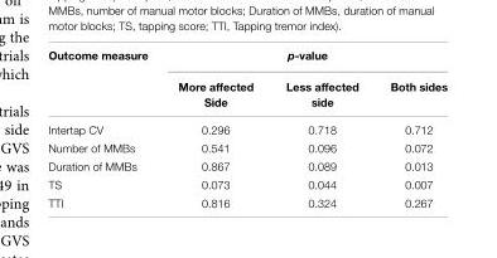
<table><thead><tr><td rowspan="2">Outcome measure</td><td colspan="3">p-value</td></tr><tr><td>More affected Side</td><td>Less affected side</td><td>Both sides</td></tr></thead><tbody><tr><td>Intertap CV</td><td>0.296</td><td>0.718</td><td>0.712</td></tr><tr><td>Number of MMBs</td><td>0.541</td><td>0.096</td><td>0.072</td></tr><tr><td>Duration of MMBs</td><td>0.867</td><td>0.089</td><td>0.013</td></tr><tr><td>TS</td><td>0.073</td><td>0.044</td><td>0.007</td></tr><tr><td>TTI</td><td>0.816</td><td>0.324</td><td>0.267</td></tr></tbody></table>